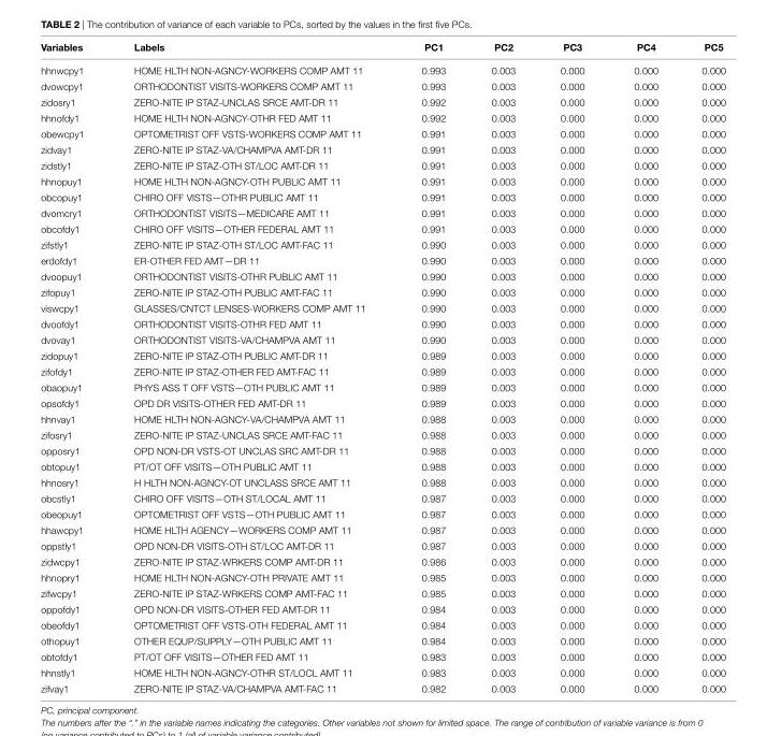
<table><thead><tr><td>Variables</td><td>labels</td><td>Pc1</td><td>Pc2</td><td>Pc3</td><td>Pc4</td><td>Pc5</td></tr></thead><tbody><tr><td>hhnwcpy1</td><td>HOME HLTH NON-AGNCY-WORKERS COMP AMT 11</td><td>0.993</td><td>0.003</td><td>0.000</td><td>0.000</td><td>0.000</td></tr><tr><td>dvowcpy1</td><td>ORTHODONTIST VISITS-WORKERS COMP AMT 11</td><td>0.993</td><td>0.003</td><td>0.000</td><td>0.000</td><td>0.000</td></tr><tr><td>zidosry1</td><td>ZERO-NITE IP STAZ-UNCLAS SRCE AMT-DR 11</td><td>0.992</td><td>0.003</td><td>0.000</td><td>0.000</td><td>0.000</td></tr><tr><td>hhnofdy1</td><td>HOME HLTH NON-AGNCY-OTHR FED AMT 11</td><td>0.992</td><td>0.003</td><td>0.000</td><td>0.000</td><td>0.000</td></tr><tr><td>obewcpy1</td><td>OPTOMETRIST OFF VSTS-WORKERS COMP AMT 11</td><td>0.991</td><td>0.003</td><td>0.000</td><td>0.000</td><td>0.000</td></tr><tr><td>zidvay1</td><td>ZERO-NITE IP STAZ-VA/CHAMPVA AMT-DR 11</td><td>0.991</td><td>0.003</td><td>0.000</td><td>0.000</td><td>0.000</td></tr><tr><td>zidstly1</td><td>ZERO-NITE IP STAZ-OTH ST/LOC AMT-DR 11</td><td>0.991</td><td>0.003</td><td>0.000</td><td>0.000</td><td>0.000</td></tr><tr><td>hhnopuy1</td><td>HOME HLTH NON-AGNCY-OTH PUBLIC AMT 11</td><td>0.991</td><td>0.003</td><td>0.000</td><td>0.000</td><td>0.000</td></tr><tr><td>obcopuy1</td><td>CHIRO OFF VISTS—OTHR PUBLIC AMT 11</td><td>0.991</td><td>0.003</td><td>0.000</td><td>0.000</td><td>0.000</td></tr><tr><td>dvomcry1</td><td>ORTHODONTIST VISITS—MEDICARE AMT 11</td><td>0.991</td><td>0.003</td><td>0.000</td><td>0.000</td><td>0.000</td></tr><tr><td>obcofdy1</td><td>CHIRO OFF VISITS—OTHER FEDERAL AMT 11</td><td>0.991</td><td>0.003</td><td>0.000</td><td>0.000</td><td>0.000</td></tr><tr><td>zifstly1</td><td>ZERO-NITE IP STAZ-OTH ST/LOC AMT-FAC 11</td><td>0.990</td><td>0.003</td><td>0.000</td><td>0.000</td><td>0.000</td></tr><tr><td>erdofdy1</td><td>ER-OTHER FED AMT—DR 11</td><td>0.990</td><td>0.003</td><td>0.000</td><td>0.000</td><td>0.000</td></tr><tr><td>dvoopuy1</td><td>ORTHODONTIST VISITS-OTHR PUBLIC AMT 11</td><td>0.990</td><td>0.003</td><td>0.000</td><td>0.000</td><td>0.000</td></tr><tr><td>zifopuy1</td><td>ZERO-NITE IP STAZ-OTH PUBLIC AMT-FAC 11</td><td>0.990</td><td>0.003</td><td>0.000</td><td>0.000</td><td>0.000</td></tr><tr><td>viswcpy1</td><td>GLASSES/CNTCT LENSES-WORKERS COMP AMT 11</td><td>0.990</td><td>0.003</td><td>0.000</td><td>0.000</td><td>0.000</td></tr><tr><td>dvoofdy1</td><td>ORTHODONTIST VISITS-OTHR FED AMT 11</td><td>0.990</td><td>0.003</td><td>0.000</td><td>0.000</td><td>0.000</td></tr><tr><td>dvovay1</td><td>ORTHODONTIST VISITS-VA/CHAMPVA AMT 11</td><td>0.990</td><td>0.003</td><td>0.000</td><td>0.000</td><td>0.000</td></tr><tr><td>zidopuy1</td><td>ZERO-NITE IP STAZ-OTH PUBLIC AMT-DR 11</td><td>0.989</td><td>0.003</td><td>0.000</td><td>0.000</td><td>0.000</td></tr><tr><td>zifofdy1</td><td>ZERO-NITE IP STAZ-OTHER FED AMT-FAC 11</td><td>0.989</td><td>0.003</td><td>0.000</td><td>0.000</td><td>0.000</td></tr><tr><td>obaopuy1</td><td>PHYS ASS T OFF VSTS—OTH PUBLIC AMT 11</td><td>0.989</td><td>0.003</td><td>0.000</td><td>0.000</td><td>0.000</td></tr><tr><td>opsofdy1</td><td>OPD DR VISITS-OTHER FED AMT-DR 11</td><td>0.989</td><td>0.003</td><td>0.000</td><td>0.000</td><td>0.000</td></tr><tr><td>hhnvay1</td><td>HOME HLTH NON-AGNCY-VA/CHAMPVA AMT 11</td><td>0.988</td><td>0.003</td><td>0.000</td><td>0.000</td><td>0.000</td></tr><tr><td>zifosry1</td><td>ZERO-NITE IP STAZ-UNCLAS SRCE AMT-FAC 11</td><td>0.988</td><td>0.003</td><td>0.000</td><td>0.000</td><td>0.000</td></tr><tr><td>opposry1</td><td>OPD NON-DR VSTS-OT UNCLAS SRC AMT-DR 11</td><td>0.988</td><td>0.003</td><td>0.000</td><td>0.000</td><td>0.000</td></tr><tr><td>obtopuy1</td><td>PT/OT OFF VISITS—OTH PUBLIC AMT 11</td><td>0.988</td><td>0.003</td><td>0.000</td><td>0.000</td><td>0.000</td></tr><tr><td>hhnosry1</td><td>H HLTH NON-AGNCY-OT UNCLASS SRCE AMT 11</td><td>0.988</td><td>0.003</td><td>0.000</td><td>0.000</td><td>0.000</td></tr><tr><td>obcstly1</td><td>CHIRO OFF VISITS—OTH ST/LOCAL AMT 11</td><td>0.987</td><td>0.003</td><td>0.000</td><td>0.000</td><td>0.000</td></tr><tr><td>obeopuy1</td><td>OPTOMETRIST OFF VSTS—OTH PUBLIC AMT 11</td><td>0.987</td><td>0.003</td><td>0.000</td><td>0.000</td><td>0.000</td></tr><tr><td>hhawcpy1</td><td>HOME HLTH AGENCY—WORKERS COMP AMT 11</td><td>0.987</td><td>0.003</td><td>0.000</td><td>0.000</td><td>0.000</td></tr><tr><td>oppstly1</td><td>OPD NON-DR VISITS-OTH ST/LOC AMT-DR 11</td><td>0.987</td><td>0.003</td><td>0.000</td><td>0.000</td><td>0.000</td></tr><tr><td>zidwcpy1</td><td>ZERO-NITE IP STAZ-WRKERS COMP AMT-DR 11</td><td>0.986</td><td>0.003</td><td>0.000</td><td>0.000</td><td>0.000</td></tr><tr><td>hhnopry1</td><td>HOME HLTH NON-AGNCY-OTH PRIVATE AMT 11</td><td>0.985</td><td>0.003</td><td>0.000</td><td>0.000</td><td>0.000</td></tr><tr><td>zifwcpy1</td><td>ZERO-NITE IP STAZ-WRKERS COMP AMT-FAC 11</td><td>0.985</td><td>0.003</td><td>0.000</td><td>0.000</td><td>0.000</td></tr><tr><td>oppofdy1</td><td>OPD NON-DR VISITS-OTHER FED AMT-DR 11</td><td>0.984</td><td>0.003</td><td>0.000</td><td>0.000</td><td>0.000</td></tr><tr><td>obeofdy1</td><td>OPTOMETRIST OFF VSTS-OTH FEDERAL AMT 11</td><td>0.984</td><td>0.003</td><td>0.000</td><td>0.000</td><td>0.000</td></tr><tr><td>othopuy1</td><td>OTHER EQUP/SUPPLY—OTH PUBLIC AMT 11</td><td>0.984</td><td>0.003</td><td>0.000</td><td>0.000</td><td>0.000</td></tr><tr><td>obtofdy1</td><td>PT/OT OFF VISITS—OTHER FED AMT 11</td><td>0.983</td><td>0.003</td><td>0.000</td><td>0.000</td><td>0.000</td></tr><tr><td>hhnstly1</td><td>HOME HLTH NON-AGNCY-OTHR ST/LOCL AMT 11</td><td>0.983</td><td>0.003</td><td>0.000</td><td>0.000</td><td>0.000</td></tr><tr><td>zifvay1</td><td>ZERO-NITE IP STAZ-VA/CHAMPVA AMT-FAC 11</td><td>0.982</td><td>0.003</td><td>0.000</td><td>0.000</td><td>0.000</td></tr></tbody></table>